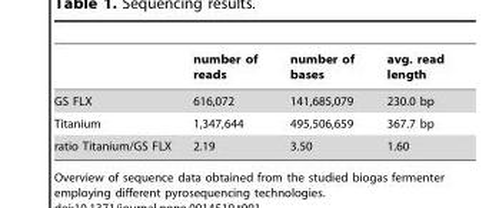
<table><thead><tr><td></td><td>number of reads</td><td>number of bases</td><td>avg. read length</td></tr></thead><tbody><tr><td>GS FLX</td><td>616,072</td><td>141,685,079</td><td>230.0 bp</td></tr><tr><td>Titanium</td><td>1,347,644</td><td>495,506,659</td><td>367.7 bp</td></tr><tr><td>ratio Titanium/GS FLX</td><td>2.19</td><td>3.50</td><td>1.60</td></tr></tbody></table>